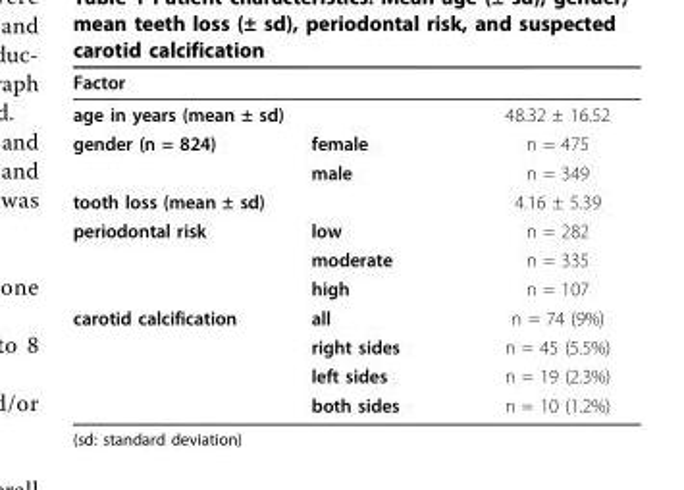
<table><thead><tr><td rowspan="2" colspan="2">Factor age in years (mean ± sd)</td><td rowspan="3">48.32 ± 16.52 n = 475</td></tr><tr></tr><tr><td>gender (n = 824)</td><td>female</td></tr></thead><tbody><tr><td></td><td>male</td><td>n = 349</td></tr><tr><td colspan="2">tooth loss (mean ± sd)</td><td>4.16 ± 5.39</td></tr><tr><td rowspan="3">periodontal risk</td><td>low</td><td>n = 282</td></tr><tr><td>moderate</td><td>n = 335</td></tr><tr><td>high</td><td>n = 107</td></tr><tr><td rowspan="4">carotid calcification</td><td>all</td><td>n = 74 (9%)</td></tr><tr><td>right sides</td><td>n = 45 (5.5%)</td></tr><tr><td>left sides</td><td>n = 19 (2.3%)</td></tr><tr><td>both sides</td><td>n = 10 (1.2%)</td></tr></tbody></table>